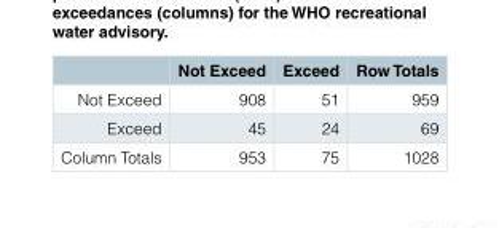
<table><thead><tr><td></td><td>Not Exceed</td><td>Exceed</td><td>Row Totals</td></tr></thead><tbody><tr><td>Not Exceed</td><td>908</td><td>51</td><td>959</td></tr><tr><td>Exceed</td><td>45</td><td>24</td><td>69</td></tr><tr><td>Column Totals</td><td>953</td><td>75</td><td>1028</td></tr></tbody></table>